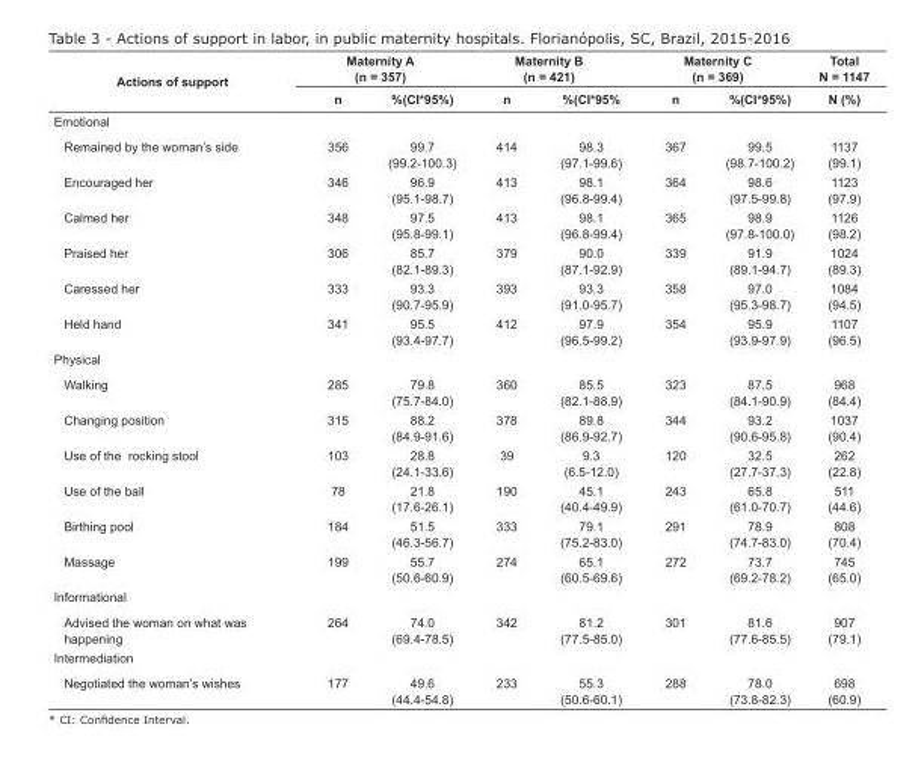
<table><tbody><tr><td rowspan="2">Actions of support</td><td colspan="2">Maternity A (n = 357)</td><td colspan="2">Maternity B (n = 421)</td><td colspan="2">Maternity C (n = 369)</td><td>Total N = 1147</td></tr><tr><td>n</td><td>%(CI*95%)</td><td>n</td><td>%(CI*95%</td><td>n</td><td>%(CI*95%)</td><td>N (%)</td></tr><tr><td colspan="8">Emotional</td></tr><tr><td>Remained by the woman’s side</td><td>356</td><td>99.7 (99.2-100.3)</td><td>414</td><td>98.3 (97.1-99.6)</td><td>367</td><td>99.5 (98.7-100.2)</td><td>1137 (99.1)</td></tr><tr><td>Encouraged her</td><td>346</td><td>96.9 (95.1-98.7)</td><td>413</td><td>98.1 (96.8-99.4)</td><td>364</td><td>98.6 (97.5-99.8)</td><td>1123 (97.9)</td></tr><tr><td>Calmed her</td><td>348</td><td>97.5 (95.8-99.1)</td><td>413</td><td>98.1 (96.8-99.4)</td><td>365</td><td>98.9 (97.8-100.0)</td><td>1126 (98.2)</td></tr><tr><td>Praised her</td><td>306</td><td>85.7 (82.1-89.3)</td><td>379</td><td>90.0 (87.1-92.9)</td><td>339</td><td>91.9 (89.1-94.7)</td><td>1024 (89.3)</td></tr><tr><td>Caressed her</td><td>333</td><td>93.3 (90.7-95.9)</td><td>393</td><td>93.3 (91.0-95.7)</td><td>358</td><td>97.0 (95.3-98.7)</td><td>1084 (94.5)</td></tr><tr><td>Held hand</td><td>341</td><td>95.5 (93.4-97.7)</td><td>412</td><td>97.9 (96.5-99.2)</td><td>354</td><td>95.9 (93.9-97.9)</td><td>1107 (96.5)</td></tr><tr><td colspan="8">Physical</td></tr><tr><td>Walking</td><td>285</td><td>79.8 (75.7-84.0)</td><td>360</td><td>85.5 (82.1-88.9)</td><td>323</td><td>87.5 (84.1-90.9)</td><td>968 (84.4)</td></tr><tr><td>Changing position</td><td>315</td><td>88.2 (84.9-91.6)</td><td>378</td><td>89.8 (86.9-92.7)</td><td>344</td><td>93.2 (90.6-95.8)</td><td>1037 (90.4)</td></tr><tr><td>Use of the rocking stool</td><td>103</td><td>28.8 (24.1-33.6)</td><td>39</td><td>9.3 (6.5-12.0)</td><td>120</td><td>32.5 (27.7-37.3)</td><td>262 (22.8)</td></tr><tr><td>Use of the ball</td><td>78</td><td>21.8 (17.6-26.1)</td><td>190</td><td>45.1 (40.4-49.9)</td><td>243</td><td>65.8 (61.0-70.7)</td><td>511 (44.6)</td></tr><tr><td>Birthing pool</td><td>184</td><td>51.5 (46.3-56.7)</td><td>333</td><td>79.1 (75.2-83.0)</td><td>291</td><td>78.9 (74.7-83.0)</td><td>808 (70.4)</td></tr><tr><td>Massage</td><td>199</td><td>55.7 (50.6-60.9)</td><td>274</td><td>65.1 (60.5-69.6)</td><td>272</td><td>73.7 (69.2-78.2)</td><td>745 (65.0)</td></tr><tr><td colspan="8">Informational</td></tr><tr><td>Advised the woman on what was happening</td><td>264</td><td>74.0 (69.4-78.5)</td><td>342</td><td>81.2 (77.5-85.0)</td><td>301</td><td>81.6 (77.6-85.5)</td><td>907 (79.1)</td></tr><tr><td colspan="8">Intermediation</td></tr><tr><td>Negotiated the woman’s wishes</td><td>177</td><td>49.6 (44.4-54.8)</td><td>233</td><td>55.3 (50.6-60.1)</td><td>288</td><td>78.0 (73.8-82.3)</td><td>698 (60.9)</td></tr></tbody></table>